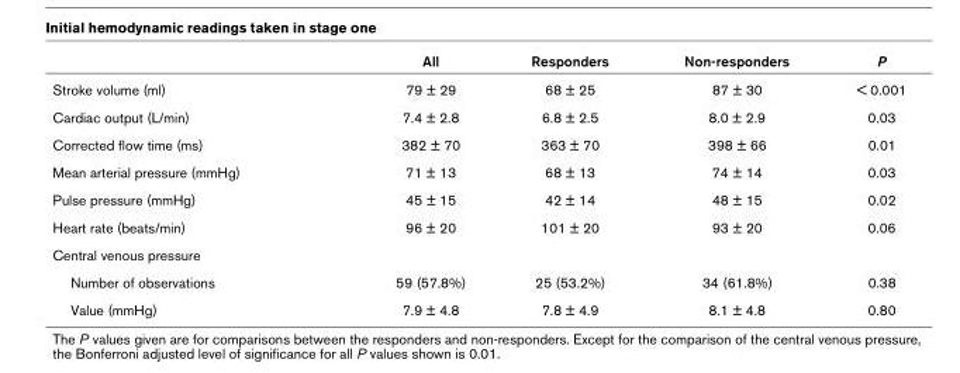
<table><thead><tr><td></td><td>All</td><td>Responders</td><td>Non-responders</td><td>P</td></tr></thead><tbody><tr><td>Stroke volume (ml)</td><td>79 ± 29</td><td>68 ± 25</td><td>87 ± 30</td><td>&lt; 0.001</td></tr><tr><td>Cardiac output (L/min)</td><td>7.4 ± 2.8</td><td>6.8 ± 2.5</td><td>8.0 ± 2.9</td><td>0.03</td></tr><tr><td>Corrected flow time (ms)</td><td>382 ± 70</td><td>363 ± 70</td><td>398 ± 66</td><td>0.01</td></tr><tr><td>Mean arterial pressure (mmHg)</td><td>71 ± 13</td><td>68 ± 13</td><td>74 ± 14</td><td>0.03</td></tr><tr><td>Pulse pressure (mmHg)</td><td>45 ± 15</td><td>42 ± 14</td><td>48 ± 15</td><td>0.02</td></tr><tr><td>Heart rate (beats/min)</td><td>96 ± 20</td><td>101 ± 20</td><td>93 ± 20</td><td>0.06</td></tr><tr><td colspan="5">Central venous pressure</td></tr><tr><td>Number of observations</td><td>59 (57.8%)</td><td>25 (53.2%)</td><td>34 (61.8%)</td><td>0.38</td></tr><tr><td>Value (mmHg)</td><td>7.9 ± 4.8</td><td>7.8 ± 4.9</td><td>8.1 ± 4.8</td><td>0.80</td></tr></tbody></table>